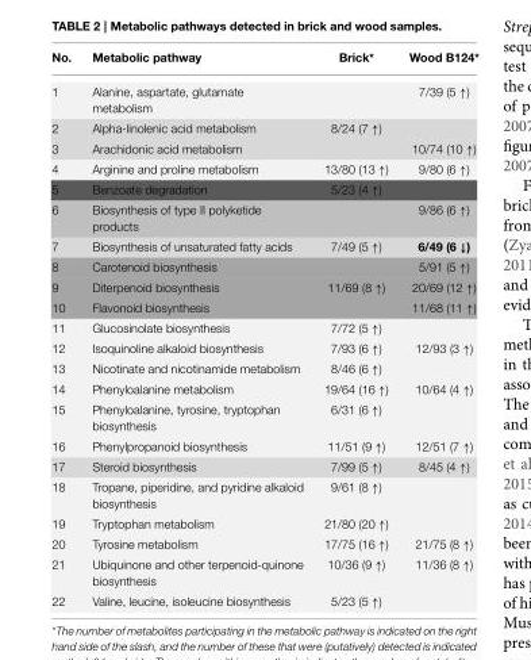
<table><thead><tr><td>No.</td><td>Metabolic pathway</td><td>Brick*</td><td>Wood B124*</td></tr></thead><tbody><tr><td>1</td><td>Alanine, aspartate, glutamate metabolism</td><td></td><td>7/39 (5 ↑)</td></tr><tr><td>2</td><td>Alpha-linolenic acid metabolism</td><td>8/24 (7 ↑)</td><td></td></tr><tr><td>3</td><td>Arachidonic acid metabolism</td><td></td><td>10/74 (10 ↑)</td></tr><tr><td>4</td><td>Arginine and proline metabolism</td><td>13/80 (13 ↑)</td><td>9/80 (6 ↑)</td></tr><tr><td>5</td><td>Benzoate degradation</td><td>5/23 (4 ↑)</td><td></td></tr><tr><td>6</td><td>Biosynthesis of type II polyketide products</td><td></td><td>9/86 (6 ↑)</td></tr><tr><td>7</td><td>Biosynthesis of unsaturated fatty acids</td><td>7/49 (5 ↑)</td><td>6/49 (6 ↓)</td></tr><tr><td>8</td><td>Carotenoid biosynthesis</td><td></td><td>5/91 (5 ↑)</td></tr><tr><td>9</td><td>Diterpenoid biosynthesis</td><td>11/69 (8 ↑)</td><td>20/69 (12 ↑)</td></tr><tr><td>10</td><td>Flavonoid biosynthesis</td><td></td><td>11/68 (11 ↑)</td></tr><tr><td>11</td><td>Glucosinolate biosynthesis</td><td>7/72 (5 ↑)</td><td></td></tr><tr><td>12</td><td>Isoquinoline alkaloid biosynthesis</td><td>7/93 (6 ↑)</td><td>12/93 (3 ↑)</td></tr><tr><td>13</td><td>Nicotinate and nicotinamide metabolism</td><td>8/46 (6 ↑)</td><td></td></tr><tr><td>14</td><td>Phenyloalanine metabolism</td><td>19/64 (16 ↑)</td><td>10/64 (4 ↑)</td></tr><tr><td>15</td><td>Phenyloalanine, tyrosine, tryptophan biosynthesis</td><td>6/31 (6 ↑)</td><td></td></tr><tr><td>16</td><td>Phenylpropanoid biosynthesis</td><td>11/51 (9 ↑)</td><td>12/51 (7 ↑)</td></tr><tr><td>17</td><td>Steroid biosynthesis</td><td>7/99 (5 ↑)</td><td>8/45 (4 ↑)</td></tr><tr><td>18</td><td>Tropane, piperidine, and pyridine alkaloid biosynthesis</td><td>9/61 (8 ↑)</td><td></td></tr><tr><td>19</td><td>Tryptophan metabolism</td><td>21/80 (20 ↑)</td><td></td></tr><tr><td>20</td><td>Tyrosine metabolism</td><td>17/75 (16 ↑)</td><td>21/75 (8 ↑)</td></tr><tr><td>21</td><td>Ubiquinone and other terpenoid-quinone biosynthesis</td><td>10/36 (9 ↑)</td><td>11/36 (8 ↑)</td></tr><tr><td>22</td><td>Valine, leucine, isoleucine biosynthesis</td><td>5/23 (5 ↑)</td><td></td></tr></tbody></table>